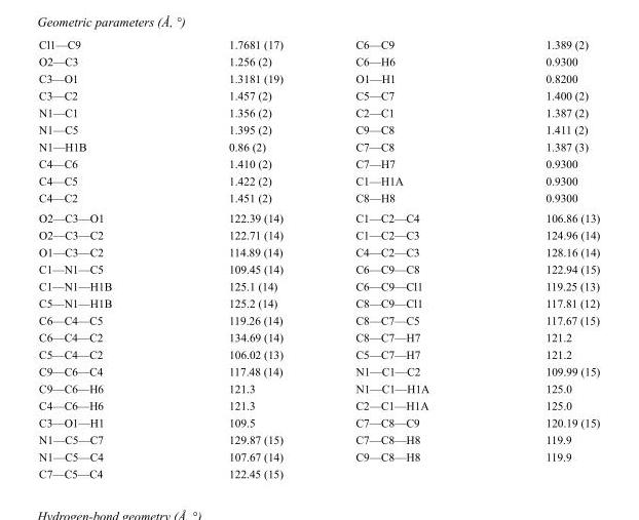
<table><tbody><tr><td>Cl1—C9</td><td>1.7681 (17)</td><td>C6—C9</td><td>1.389 (2)</td></tr><tr><td>O2—C3</td><td>1.256 (2)</td><td>C6—H6</td><td>0.9300</td></tr><tr><td>C3—O1</td><td>1.3181 (19)</td><td>O1—H1</td><td>0.8200</td></tr><tr><td>C3—C2</td><td>1.457 (2)</td><td>C5—C7</td><td>1.400 (2)</td></tr><tr><td>N1—C1</td><td>1.356 (2)</td><td>C2—C1</td><td>1.387 (2)</td></tr><tr><td>N1—C5</td><td>1.395 (2)</td><td>C9—C8</td><td>1.411 (2)</td></tr><tr><td>N1—H1B</td><td>0.86 (2)</td><td>C7—C8</td><td>1.387 (3)</td></tr><tr><td>C4—C6</td><td>1.410 (2)</td><td>C7—H7</td><td>0.9300</td></tr><tr><td>C4—C5</td><td>1.422 (2)</td><td>C1—H1A</td><td>0.9300</td></tr><tr><td>C4—C2</td><td>1.451 (2)</td><td>C8—H8</td><td>0.9300</td></tr><tr><td>O2—C3—O1</td><td>122.39 (14)</td><td>C1—C2—C4</td><td>106.86 (13)</td></tr><tr><td>O2—C3—C2</td><td>122.71 (14)</td><td>C1—C2—C3</td><td>124.96 (14)</td></tr><tr><td>O1—C3—C2</td><td>114.89 (14)</td><td>C4—C2—C3</td><td>128.16 (14)</td></tr><tr><td>C1—N1—C5</td><td>109.45 (14)</td><td>C6—C9—C8</td><td>122.94 (15)</td></tr><tr><td>C1—N1—H1B</td><td>125.1 (14)</td><td>C6—C9—Cl1</td><td>119.25 (13)</td></tr><tr><td>C5—N1—H1B</td><td>125.2 (14)</td><td>C8—C9—Cl1</td><td>117.81 (12)</td></tr><tr><td>C6—C4—C5</td><td>119.26 (14)</td><td>C8—C7—C5</td><td>117.67 (15)</td></tr><tr><td>C6—C4—C2</td><td>134.69 (14)</td><td>C8—C7—H7</td><td>121.2</td></tr><tr><td>C5—C4—C2</td><td>106.02 (13)</td><td>C5—C7—H7</td><td>121.2</td></tr><tr><td>C9—C6—C4</td><td>117.48 (14)</td><td>N1—C1—C2</td><td>109.99 (15)</td></tr><tr><td>C9—C6—H6</td><td>121.3</td><td>N1—C1—H1A</td><td>125.0</td></tr><tr><td>C4—C6—H6</td><td>121.3</td><td>C2—C1—H1A</td><td>125.0</td></tr><tr><td>C3—O1—H1</td><td>109.5</td><td>C7—C8—C9</td><td>120.19 (15)</td></tr><tr><td>N1—C5—C7</td><td>129.87 (15)</td><td>C7—C8—H8</td><td>119.9</td></tr><tr><td>N1—C5—C4</td><td>107.67 (14)</td><td>C9—C8—H8</td><td>119.9</td></tr><tr><td>C7—C5—C4</td><td>122.45 (15)</td><td></td><td></td></tr></tbody></table>